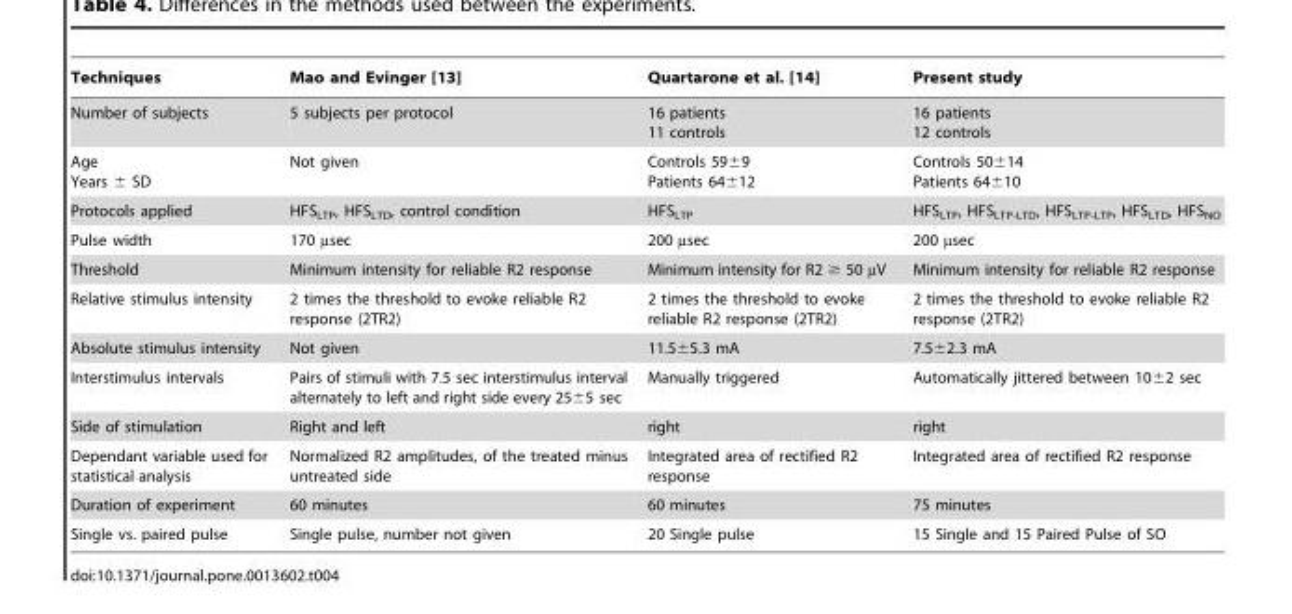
<table><thead><tr><td>Techniques</td><td>Mao and Evinger [13]</td><td>Quartarone et al. [14]</td><td>Present study</td></tr></thead><tbody><tr><td>Number of subjects</td><td>5 subjects per protocol</td><td>16 patients 11 controls</td><td>16 patients 12 controls</td></tr><tr><td>Age Years ± SD</td><td>Not given</td><td>Controls 59±9 Patients 64±12</td><td>Controls 50±14 Patients 64±10</td></tr><tr><td>Protocols applied</td><td>HFS<sub>LTP</sub>, HFS<sub>LTD</sub>, control condition</td><td>HFS<sub>LTP</sub></td><td>HFS<sub>LTP</sub>, HFS<sub>LTP-LTD</sub>, HFS<sub>LTP-LTP</sub>, HFS<sub>LTD</sub>, HFS<sub>NO</sub></td></tr><tr><td>Pulse width</td><td>170 µsec</td><td>200 µsec</td><td>200 µsec</td></tr><tr><td>Threshold</td><td>Minimum intensity for reliable R2 response</td><td>Minimum intensity for R2 ≥ 50 µV</td><td>Minimum intensity for reliable R2 response</td></tr><tr><td>Relative stimulus intensity</td><td>2 times the threshold to evoke reliable R2 response (2TR2)</td><td>2 times the threshold to evoke reliable R2 response (2TR2)</td><td>2 times the threshold to evoke reliable R2 response (2TR2)</td></tr><tr><td>Absolute stimulus intensity</td><td>Not given</td><td>11.5±5.3 mA</td><td>7.5±2.3 mA</td></tr><tr><td>Interstimulus intervals</td><td>Pairs of stimuli with 7.5 sec interstimulus interval alternately to left and right side every 25±5 sec</td><td>Manually triggered</td><td>Automatically jittered between 10±2 sec</td></tr><tr><td>Side of stimulation</td><td>Right and left</td><td>right</td><td>right</td></tr><tr><td>Dependant variable used for statistical analysis</td><td>Normalized R2 amplitudes, of the treated minus untreated side</td><td>Integrated area of rectified R2 response</td><td>Integrated area of rectified R2 response</td></tr><tr><td>Duration of experiment</td><td>60 minutes</td><td>60 minutes</td><td>75 minutes</td></tr><tr><td>Single vs. paired pulse</td><td>Single pulse, number not given</td><td>20 Single pulse</td><td>15 Single and 15 Paired Pulse of SO</td></tr></tbody></table>